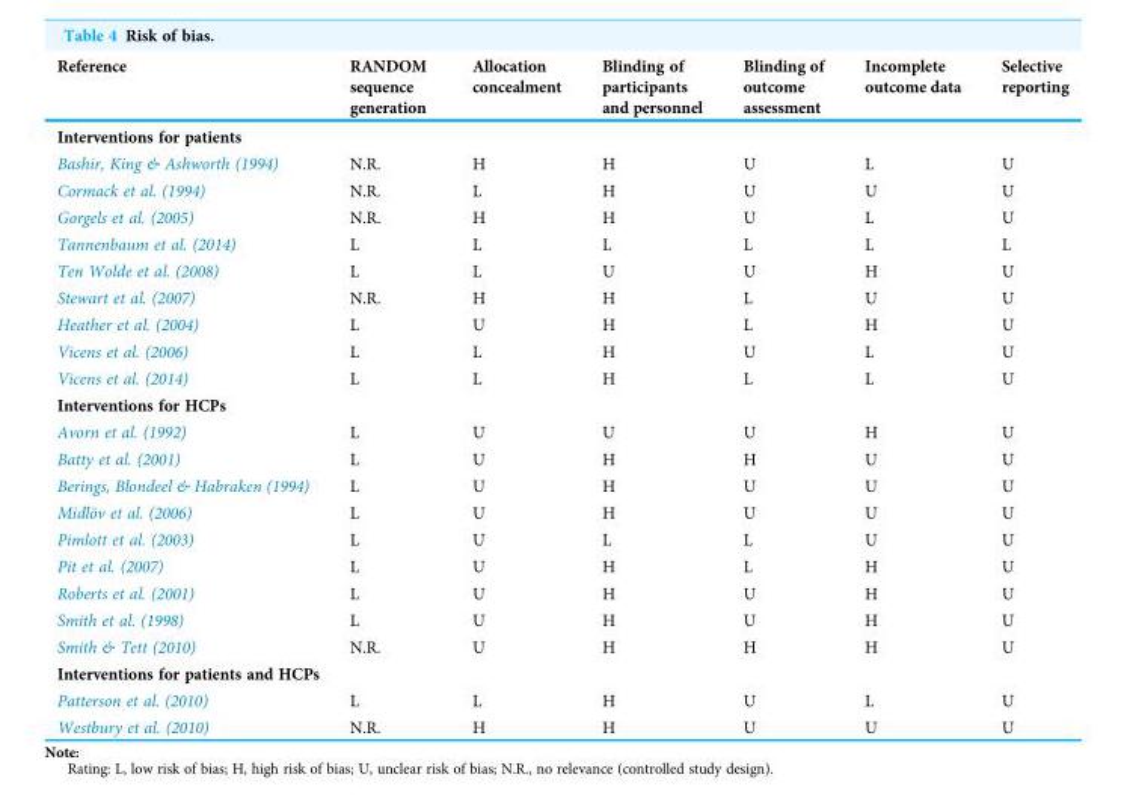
<table><thead><tr><td>Reference</td><td>RANDOM sequence generation</td><td>Allocation concealment</td><td>Blinding of participants and personnel</td><td>Blinding of outcome assessment</td><td>Incomplete outcome data</td><td>Selective reporting</td></tr></thead><tbody><tr><td colspan="7">Interventions for patients</td></tr><tr><td>Bashir, King &amp; Ashworth (1994)</td><td>N.R.</td><td>H</td><td>H</td><td>U</td><td>L</td><td>U</td></tr><tr><td>Cormack et al. (1994)</td><td>N.R.</td><td>L</td><td>H</td><td>U</td><td>U</td><td>U</td></tr><tr><td>Gorgels et al. (2005)</td><td>N.R.</td><td>H</td><td>H</td><td>U</td><td>L</td><td>U</td></tr><tr><td>Tannenbaum et al. (2014)</td><td>L</td><td>L</td><td>L</td><td>L</td><td>L</td><td>L</td></tr><tr><td>Ten Wolde et al. (2008)</td><td>L</td><td>L</td><td>U</td><td>U</td><td>H</td><td>U</td></tr><tr><td>Stewart et al. (2007)</td><td>N.R.</td><td>H</td><td>H</td><td>L</td><td>U</td><td>U</td></tr><tr><td>Heather et al. (2004)</td><td>L</td><td>U</td><td>H</td><td>L</td><td>H</td><td>U</td></tr><tr><td>Vicens et al. (2006)</td><td>L</td><td>L</td><td>H</td><td>U</td><td>L</td><td>U</td></tr><tr><td>Vicens et al. (2014)</td><td>L</td><td>L</td><td>H</td><td>L</td><td>L</td><td>U</td></tr><tr><td colspan="7">Interventions for HCPs</td></tr><tr><td>Avorn et al. (1992)</td><td>L</td><td>U</td><td>U</td><td>U</td><td>H</td><td>U</td></tr><tr><td>Batty et al. (2001)</td><td>L</td><td>U</td><td>H</td><td>H</td><td>U</td><td>U</td></tr><tr><td>Berings, Blondeel &amp; Habraken (1994)</td><td>L</td><td>U</td><td>H</td><td>U</td><td>U</td><td>U</td></tr><tr><td>Midlöv et al. (2006)</td><td>L</td><td>U</td><td>H</td><td>U</td><td>U</td><td>U</td></tr><tr><td>Pimlott et al. (2003)</td><td>L</td><td>U</td><td>L</td><td>L</td><td>U</td><td>U</td></tr><tr><td>Pit et al. (2007)</td><td>L</td><td>U</td><td>H</td><td>L</td><td>H</td><td>U</td></tr><tr><td>Roberts et al. (2001)</td><td>L</td><td>U</td><td>H</td><td>U</td><td>H</td><td>U</td></tr><tr><td>Smith et al. (1998)</td><td>L</td><td>U</td><td>H</td><td>U</td><td>H</td><td>U</td></tr><tr><td>Smith &amp; Tett (2010)</td><td>N.R.</td><td>U</td><td>H</td><td>H</td><td>H</td><td>U</td></tr><tr><td colspan="7">Interventions for patients and HCPs</td></tr><tr><td>Patterson et al. (2010)</td><td>L</td><td>L</td><td>H</td><td>U</td><td>L</td><td>U</td></tr><tr><td>Westbury et al. (2010)</td><td>N.R.</td><td>H</td><td>H</td><td>U</td><td>U</td><td>U</td></tr></tbody></table>